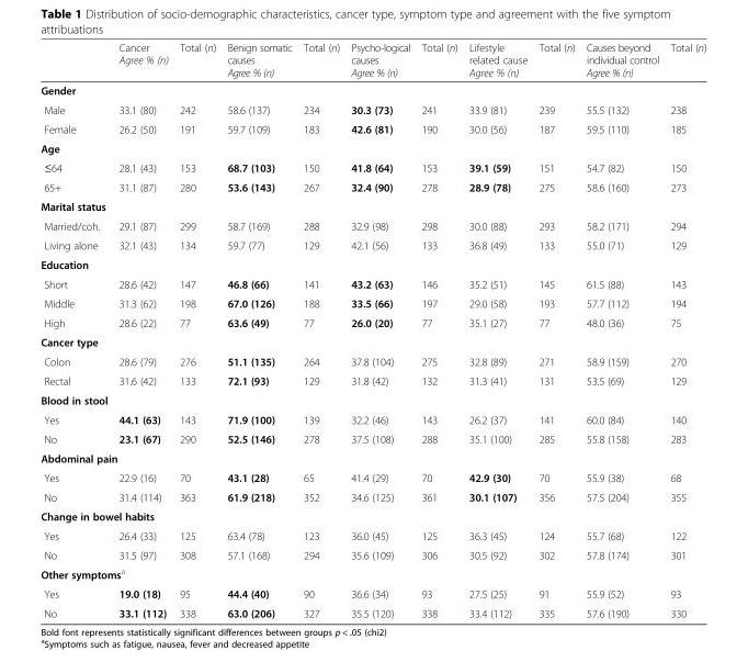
<table><thead><tr><td></td><td>Cancer Agree % (n)</td><td>Total (n)</td><td>Benign somatic causes Agree % (n)</td><td>Total (n)</td><td>Psycho-logical causes Agree % (n)</td><td>Total (n)</td><td>Lifestyle related cause Agree % (n)</td><td>Total (n)</td><td>Causes beyond individual control Agree % (n)</td><td>Total (n)</td></tr></thead><tbody><tr><td colspan="11">Gender</td></tr><tr><td>Male</td><td>33.1 (80)</td><td>242</td><td>58.6 (137)</td><td>234</td><td>30.3 (73)</td><td>241</td><td>33.9 (81)</td><td>239</td><td>55.5 (132)</td><td>238</td></tr><tr><td>Female</td><td>26.2 (50)</td><td>191</td><td>59.7 (109)</td><td>183</td><td>42.6 (81)</td><td>190</td><td>30.0 (56)</td><td>187</td><td>59.5 (110)</td><td>185</td></tr><tr><td colspan="11">Age</td></tr><tr><td>≤64</td><td>28.1 (43)</td><td>153</td><td>68.7 (103)</td><td>150</td><td>41.8 (64)</td><td>153</td><td>39.1 (59)</td><td>151</td><td>54.7 (82)</td><td>150</td></tr><tr><td>65+</td><td>31.1 (87)</td><td>280</td><td>53.6 (143)</td><td>267</td><td>32.4 (90)</td><td>278</td><td>28.9 (78)</td><td>275</td><td>58.6 (160)</td><td>273</td></tr><tr><td colspan="11">Marital status</td></tr><tr><td>Married/coh.</td><td>29.1 (87)</td><td>299</td><td>58.7 (169)</td><td>288</td><td>32.9 (98)</td><td>298</td><td>30.0 (88)</td><td>293</td><td>58.2 (171)</td><td>294</td></tr><tr><td>Living alone</td><td>32.1 (43)</td><td>134</td><td>59.7 (77)</td><td>129</td><td>42.1 (56)</td><td>133</td><td>36.8 (49)</td><td>133</td><td>55.0 (71)</td><td>129</td></tr><tr><td colspan="11">Education</td></tr><tr><td>Short</td><td>28.6 (42)</td><td>147</td><td>46.8 (66)</td><td>141</td><td>43.2 (63)</td><td>146</td><td>35.2 (51)</td><td>145</td><td>61.5 (88)</td><td>143</td></tr><tr><td>Middle</td><td>31.3 (62)</td><td>198</td><td>67.0 (126)</td><td>188</td><td>33.5 (66)</td><td>197</td><td>29.0 (58)</td><td>193</td><td>57.7 (112)</td><td>194</td></tr><tr><td>High</td><td>28.6 (22)</td><td>77</td><td>63.6 (49)</td><td>77</td><td>26.0 (20)</td><td>77</td><td>35.1 (27)</td><td>77</td><td>48.0 (36)</td><td>75</td></tr><tr><td colspan="11">Cancer type</td></tr><tr><td>Colon</td><td>28.6 (79)</td><td>276</td><td>51.1 (135)</td><td>264</td><td>37.8 (104)</td><td>275</td><td>32.8 (89)</td><td>271</td><td>58.9 (159)</td><td>270</td></tr><tr><td>Rectal</td><td>31.6 (42)</td><td>133</td><td>72.1 (93)</td><td>129</td><td>31.8 (42)</td><td>132</td><td>31.3 (41)</td><td>131</td><td>53.5 (69)</td><td>129</td></tr><tr><td colspan="11">Blood in stool</td></tr><tr><td>Yes</td><td>44.1 (63)</td><td>143</td><td>71.9 (100)</td><td>139</td><td>32.2 (46)</td><td>143</td><td>26.2 (37)</td><td>141</td><td>60.0 (84)</td><td>140</td></tr><tr><td>No</td><td>23.1 (67)</td><td>290</td><td>52.5 (146)</td><td>278</td><td>37.5 (108)</td><td>288</td><td>35.1 (100)</td><td>285</td><td>55.8 (158)</td><td>283</td></tr><tr><td colspan="11">Abdominal pain</td></tr><tr><td>Yes</td><td>22.9 (16)</td><td>70</td><td>43.1 (28)</td><td>65</td><td>41.4 (29)</td><td>70</td><td>42.9 (30)</td><td>70</td><td>55.9 (38)</td><td>68</td></tr><tr><td>No</td><td>31.4 (114)</td><td>363</td><td>61.9 (218)</td><td>352</td><td>34.6 (125)</td><td>361</td><td>30.1 (107)</td><td>356</td><td>57.5 (204)</td><td>355</td></tr><tr><td colspan="11">Change in bowel habits</td></tr><tr><td>Yes</td><td>26.4 (33)</td><td>125</td><td>63.4 (78)</td><td>123</td><td>36.0 (45)</td><td>125</td><td>36.3 (45)</td><td>124</td><td>55.7 (68)</td><td>122</td></tr><tr><td>No</td><td>31.5 (97)</td><td>308</td><td>57.1 (168)</td><td>294</td><td>35.6 (109)</td><td>306</td><td>30.5 (92)</td><td>302</td><td>57.8 (174)</td><td>301</td></tr><tr><td colspan="11">Other symptoms<sup>a</sup></td></tr><tr><td>Yes</td><td>19.0 (18)</td><td>95</td><td>44.4 (40)</td><td>90</td><td>36.6 (34)</td><td>93</td><td>27.5 (25)</td><td>91</td><td>55.9 (52)</td><td>93</td></tr><tr><td>No</td><td>33.1 (112)</td><td>338</td><td>63.0 (206)</td><td>327</td><td>35.5 (120)</td><td>338</td><td>33.4 (112)</td><td>335</td><td>57.6 (190)</td><td>330</td></tr></tbody></table>